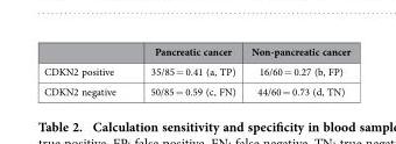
<table><thead><tr><td></td><td>Pancreatic cancer</td><td>Non-pancreatic cancer</td></tr></thead><tbody><tr><td>CDKN2 positive</td><td>35/85 = 0.41 (a, TP)</td><td>16/60 = 0.27 (b, FP)</td></tr><tr><td>CDKN2 negative</td><td>50/85 = 0.59 (c, FN)</td><td>44/60 = 0.73 (d, TN)</td></tr></tbody></table>